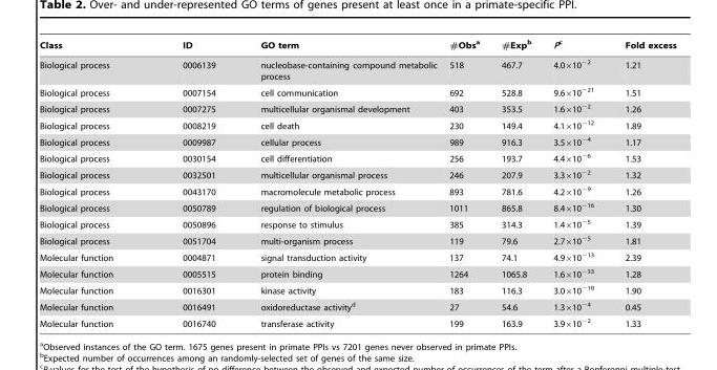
<table><thead><tr><td>Class</td><td>ID</td><td>GO term</td><td>#Obs<sup>a</sup></td><td>#Exp<sup>b</sup></td><td>Pc</td><td>Fold excess</td></tr></thead><tbody><tr><td>Biological process</td><td>0006139</td><td>nucleobase-containing compound metabolic process</td><td>518</td><td>467.7</td><td>4.0×10<sup>−2</sup></td><td>1.21</td></tr><tr><td>Biological process</td><td>0007154</td><td>cell communication</td><td>692</td><td>528.8</td><td>9.6×10<sup>−21</sup></td><td>1.51</td></tr><tr><td>Biological process</td><td>0007275</td><td>multicellular organismal development</td><td>403</td><td>353.5</td><td>1.6×10<sup>−2</sup></td><td>1.26</td></tr><tr><td>Biological process</td><td>0008219</td><td>cell death</td><td>230</td><td>149.4</td><td>4.1×10<sup>−12</sup></td><td>1.89</td></tr><tr><td>Biological process</td><td>0009987</td><td>cellular process</td><td>989</td><td>916.3</td><td>3.5×10<sup>−4</sup></td><td>1.17</td></tr><tr><td>Biological process</td><td>0030154</td><td>cell differentiation</td><td>256</td><td>193.7</td><td>4.4×10<sup>−6</sup></td><td>1.53</td></tr><tr><td>Biological process</td><td>0032501</td><td>multicellular organismal process</td><td>246</td><td>207.9</td><td>3.3×10<sup>−2</sup></td><td>1.32</td></tr><tr><td>Biological process</td><td>0043170</td><td>macromolecule metabolic process</td><td>893</td><td>781.6</td><td>4.2×10<sup>−9</sup></td><td>1.26</td></tr><tr><td>Biological process</td><td>0050789</td><td>regulation of biological process</td><td>1011</td><td>865.8</td><td>8.4×10<sup>−16</sup></td><td>1.30</td></tr><tr><td>Biological process</td><td>0050896</td><td>response to stimulus</td><td>385</td><td>314.3</td><td>1.4×10<sup>−5</sup></td><td>1.39</td></tr><tr><td>Biological process</td><td>0051704</td><td>multi-organism process</td><td>119</td><td>79.6</td><td>2.7×10<sup>−5</sup></td><td>1.81</td></tr><tr><td>Molecular function</td><td>0004871</td><td>signal transduction activity</td><td>137</td><td>74.1</td><td>4.9×10<sup>−13</sup></td><td>2.39</td></tr><tr><td>Molecular function</td><td>0005515</td><td>protein binding</td><td>1264</td><td>1065.8</td><td>1.6×10<sup>−33</sup></td><td>1.28</td></tr><tr><td>Molecular function</td><td>0016301</td><td>kinase activity</td><td>183</td><td>116.3</td><td>3.0×10<sup>−10</sup></td><td>1.90</td></tr><tr><td>Molecular function</td><td>0016491</td><td>oxidoreductase activity<sup>d</sup></td><td>27</td><td>54.6</td><td>1.3×10<sup>−4</sup></td><td>0.45</td></tr><tr><td>Molecular function</td><td>0016740</td><td>transferase activity</td><td>199</td><td>163.9</td><td>3.9×10<sup>−2</sup></td><td>1.33</td></tr></tbody></table>